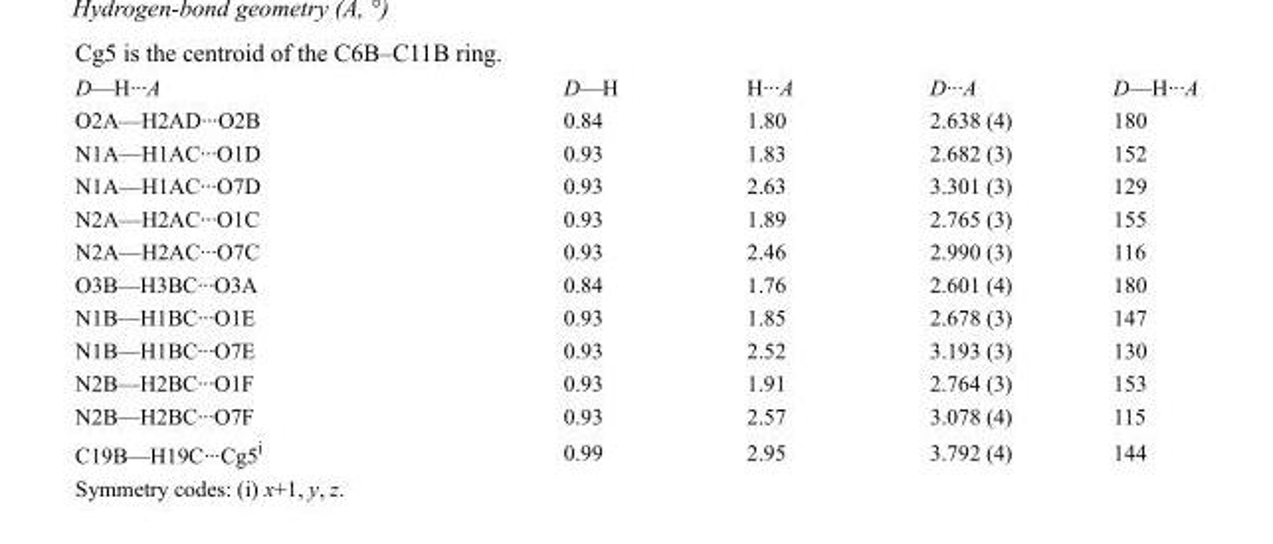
<table><tbody><tr><td>D—H···A</td><td>D—H</td><td>H···A</td><td>D···A</td><td>D—H···A</td></tr><tr><td>O2A—H2AD···O2B</td><td>0.84</td><td>1.80</td><td>2.638 (4)</td><td>180</td></tr><tr><td>N1A—H1AC···O1D</td><td>0.93</td><td>1.83</td><td>2.682 (3)</td><td>152</td></tr><tr><td>N1A—H1AC···O7D</td><td>0.93</td><td>2.63</td><td>3.301 (3)</td><td>129</td></tr><tr><td>N2A—H2AC···O1C</td><td>0.93</td><td>1.89</td><td>2.765 (3)</td><td>155</td></tr><tr><td>N2A—H2AC···O7C</td><td>0.93</td><td>2.46</td><td>2.990 (3)</td><td>116</td></tr><tr><td>O3B—H3BC···O3A</td><td>0.84</td><td>1.76</td><td>2.601 (4)</td><td>180</td></tr><tr><td>N1B—H1BC···O1E</td><td>0.93</td><td>1.85</td><td>2.678 (3)</td><td>147</td></tr><tr><td>N1B—H1BC···O7E</td><td>0.93</td><td>2.52</td><td>3.193 (3)</td><td>130</td></tr><tr><td>N2B—H2BC···O1F</td><td>0.93</td><td>1.91</td><td>2.764 (3)</td><td>153</td></tr><tr><td>N2B—H2BC···O7F</td><td>0.93</td><td>2.57</td><td>3.078 (4)</td><td>115</td></tr><tr><td>C19B—H19C···Cg5<sup>i</sup></td><td>0.99</td><td>2.95</td><td>3.792 (4)</td><td>144</td></tr></tbody></table>